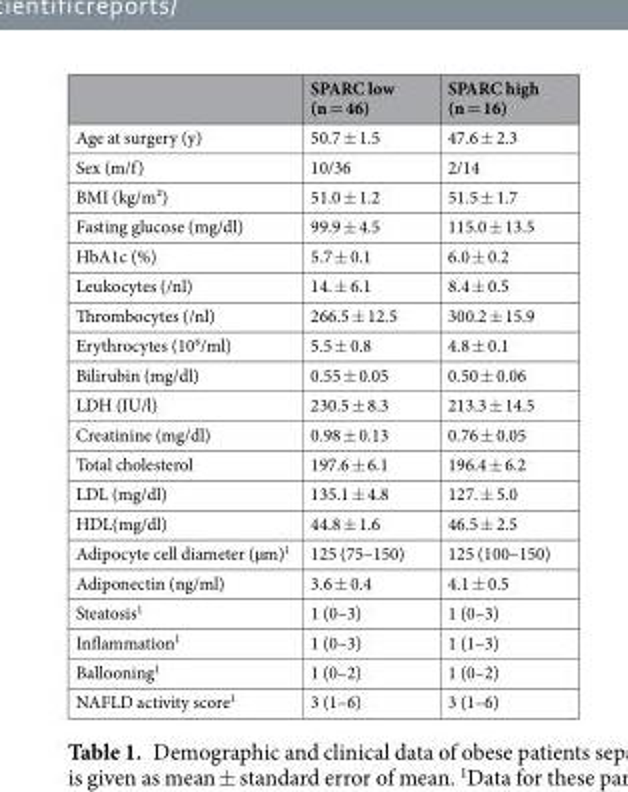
<table><thead><tr><td></td><td>SPARC low (n = 46)</td><td>SPARC high (n = 16)</td></tr></thead><tbody><tr><td>Age at surgery (y)</td><td>50.7 ± 1.5</td><td>47.6 ± 2.3</td></tr><tr><td>Sex (m/f)</td><td>10/36</td><td>2/14</td></tr><tr><td>BMI (kg/m²)</td><td>51.0 ± 1.2</td><td>51.5 ± 1.7</td></tr><tr><td>Fasting glucose (mg/dl)</td><td>99.9 ± 4.5</td><td>115.0 ± 13.5</td></tr><tr><td>HbA1c (%)</td><td>5.7 ± 0.1</td><td>6.0 ± 0.2</td></tr><tr><td>Leukocytes (/nl)</td><td>14. ± 6.1</td><td>8.4 ± 0.5</td></tr><tr><td>Thrombocytes (/nl)</td><td>266.5 ± 12.5</td><td>300.2 ± 15.9</td></tr><tr><td>Erythrocytes (10<sup>6</sup>/ml)</td><td>5.5 ± 0.8</td><td>4.8 ± 0.1</td></tr><tr><td>Bilirubin (mg/dl)</td><td>0.55 ± 0.05</td><td>0.50 ± 0.06</td></tr><tr><td>LDH (IU/l)</td><td>230.5 ± 8.3</td><td>213.3 ± 14.5</td></tr><tr><td>Creatinine (mg/dl)</td><td>0.98 ± 0.13</td><td>0.76 ± 0.05</td></tr><tr><td>Total cholesterol</td><td>197.6 ± 6.1</td><td>196.4 ± 6.2</td></tr><tr><td>LDL (mg/dl)</td><td>135.1 ± 4.8</td><td>127. ± 5.0</td></tr><tr><td>HDL(mg/dl)</td><td>44.8 ± 1.6</td><td>46.5 ± 2.5</td></tr><tr><td>Adipocyte cell diameter (µm)<sup>1</sup></td><td>125 (75–150)</td><td>125 (100–150)</td></tr><tr><td>Adiponectin (ng/ml)</td><td>3.6 ± 0.4</td><td>4.1 ± 0.5</td></tr><tr><td>Steatosis<sup>1</sup></td><td>1 (0–3)</td><td>1 (0–3)</td></tr><tr><td>Inflammation<sup>1</sup></td><td>1 (0–3)</td><td>1 (1–3)</td></tr><tr><td>Ballooning<sup>1</sup></td><td>1 (0–2)</td><td>1 (0–2)</td></tr><tr><td>NAFLD activity score<sup>1</sup></td><td>3 (1–6)</td><td>3 (1–6)</td></tr></tbody></table>